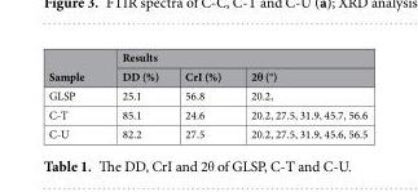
<table><thead><tr><td rowspan="2">Sample</td><td colspan="3">Results</td></tr><tr><td>DD (%)</td><td>CrI (%)</td><td>2θ (°)</td></tr></thead><tbody><tr><td>GLSP</td><td>25.1</td><td>56.8</td><td>20.2,</td></tr><tr><td>C-T</td><td>85.1</td><td>24.6</td><td>20.2, 27.5, 31.9, 45.7, 56.6</td></tr><tr><td>C-U</td><td>82.2</td><td>27.5</td><td>20.2, 27.5, 31.9, 45.6, 56.5</td></tr></tbody></table>